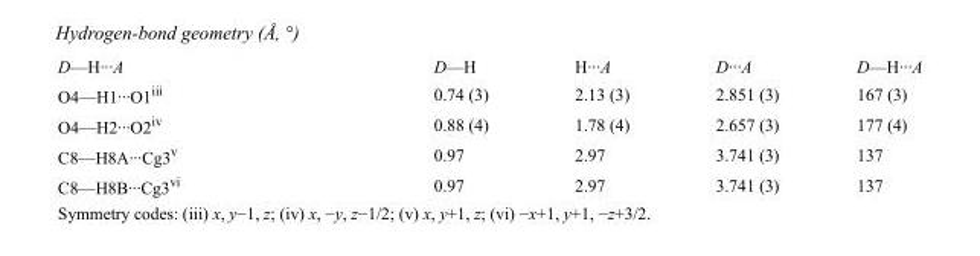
<table><tbody><tr><td>D—H···A</td><td>D—H</td><td>H···A</td><td>D···A</td><td>D—H···A</td></tr><tr><td>O4—H1···O1<sup>iii</sup></td><td>0.74 (3)</td><td>2.13 (3)</td><td>2.851 (3)</td><td>167 (3)</td></tr><tr><td>O4—H2···O2<sup>iv</sup></td><td>0.88 (4)</td><td>1.78 (4)</td><td>2.657 (3)</td><td>177 (4)</td></tr><tr><td>C8—H8A···Cg3<sup>v</sup></td><td>0.97</td><td>2.97</td><td>3.741 (3)</td><td>137</td></tr><tr><td>C8—H8B···Cg3<sup>vi</sup></td><td>0.97</td><td>2.97</td><td>3.741 (3)</td><td>137</td></tr></tbody></table>